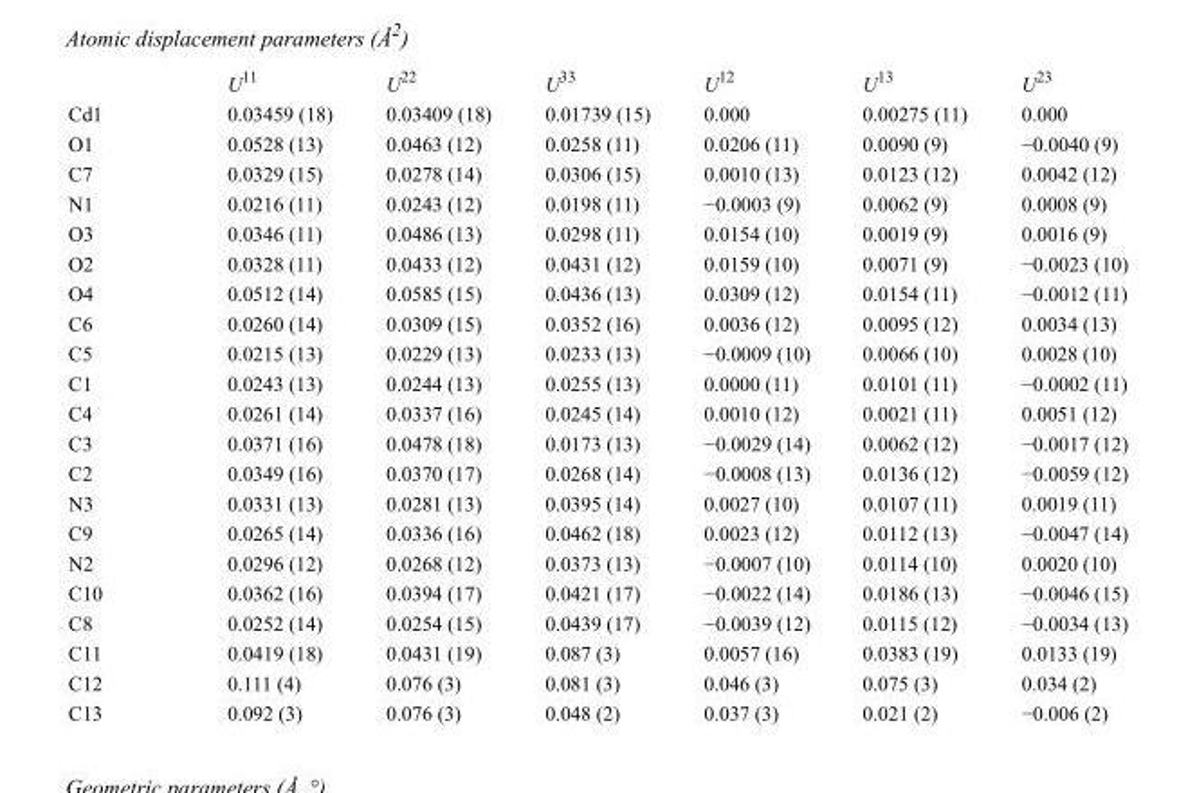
<table><thead><tr><td></td><td>U<sup>11</sup></td><td>U<sup>22</sup></td><td>U<sup>33</sup></td><td>U<sup>12</sup></td><td>U<sup>13</sup></td><td>U<sup>23</sup></td></tr></thead><tbody><tr><td>Cd1</td><td>0.03459 (18)</td><td>0.03409 (18)</td><td>0.01739 (15)</td><td>0.000</td><td>0.00275 (11)</td><td>0.000</td></tr><tr><td>O1</td><td>0.0528 (13)</td><td>0.0463 (12)</td><td>0.0258 (11)</td><td>0.0206 (11)</td><td>0.0090 (9)</td><td>−0.0040 (9)</td></tr><tr><td>C7</td><td>0.0329 (15)</td><td>0.0278 (14)</td><td>0.0306 (15)</td><td>0.0010 (13)</td><td>0.0123 (12)</td><td>0.0042 (12)</td></tr><tr><td>N1</td><td>0.0216 (11)</td><td>0.0243 (12)</td><td>0.0198 (11)</td><td>−0.0003 (9)</td><td>0.0062 (9)</td><td>0.0008 (9)</td></tr><tr><td>O3</td><td>0.0346 (11)</td><td>0.0486 (13)</td><td>0.0298 (11)</td><td>0.0154 (10)</td><td>0.0019 (9)</td><td>0.0016 (9)</td></tr><tr><td>O2</td><td>0.0328 (11)</td><td>0.0433 (12)</td><td>0.0431 (12)</td><td>0.0159 (10)</td><td>0.0071 (9)</td><td>−0.0023 (10)</td></tr><tr><td>O4</td><td>0.0512 (14)</td><td>0.0585 (15)</td><td>0.0436 (13)</td><td>0.0309 (12)</td><td>0.0154 (11)</td><td>−0.0012 (11)</td></tr><tr><td>C6</td><td>0.0260 (14)</td><td>0.0309 (15)</td><td>0.0352 (16)</td><td>0.0036 (12)</td><td>0.0095 (12)</td><td>0.0034 (13)</td></tr><tr><td>C5</td><td>0.0215 (13)</td><td>0.0229 (13)</td><td>0.0233 (13)</td><td>−0.0009 (10)</td><td>0.0066 (10)</td><td>0.0028 (10)</td></tr><tr><td>C1</td><td>0.0243 (13)</td><td>0.0244 (13)</td><td>0.0255 (13)</td><td>0.0000 (11)</td><td>0.0101 (11)</td><td>−0.0002 (11)</td></tr><tr><td>C4</td><td>0.0261 (14)</td><td>0.0337 (16)</td><td>0.0245 (14)</td><td>0.0010 (12)</td><td>0.0021 (11)</td><td>0.0051 (12)</td></tr><tr><td>C3</td><td>0.0371 (16)</td><td>0.0478 (18)</td><td>0.0173 (13)</td><td>−0.0029 (14)</td><td>0.0062 (12)</td><td>−0.0017 (12)</td></tr><tr><td>C2</td><td>0.0349 (16)</td><td>0.0370 (17)</td><td>0.0268 (14)</td><td>−0.0008 (13)</td><td>0.0136 (12)</td><td>−0.0059 (12)</td></tr><tr><td>N3</td><td>0.0331 (13)</td><td>0.0281 (13)</td><td>0.0395 (14)</td><td>0.0027 (10)</td><td>0.0107 (11)</td><td>0.0019 (11)</td></tr><tr><td>C9</td><td>0.0265 (14)</td><td>0.0336 (16)</td><td>0.0462 (18)</td><td>0.0023 (12)</td><td>0.0112 (13)</td><td>−0.0047 (14)</td></tr><tr><td>N2</td><td>0.0296 (12)</td><td>0.0268 (12)</td><td>0.0373 (13)</td><td>−0.0007 (10)</td><td>0.0114 (10)</td><td>0.0020 (10)</td></tr><tr><td>C10</td><td>0.0362 (16)</td><td>0.0394 (17)</td><td>0.0421 (17)</td><td>−0.0022 (14)</td><td>0.0186 (13)</td><td>−0.0046 (15)</td></tr><tr><td>C8</td><td>0.0252 (14)</td><td>0.0254 (15)</td><td>0.0439 (17)</td><td>−0.0039 (12)</td><td>0.0115 (12)</td><td>−0.0034 (13)</td></tr><tr><td>C11</td><td>0.0419 (18)</td><td>0.0431 (19)</td><td>0.087 (3)</td><td>0.0057 (16)</td><td>0.0383 (19)</td><td>0.0133 (19)</td></tr><tr><td>C12</td><td>0.111 (4)</td><td>0.076 (3)</td><td>0.081 (3)</td><td>0.046 (3)</td><td>0.075 (3)</td><td>0.034 (2)</td></tr><tr><td>C13</td><td>0.092 (3)</td><td>0.076 (3)</td><td>0.048 (2)</td><td>0.037 (3)</td><td>0.021 (2)</td><td>−0.006 (2)</td></tr></tbody></table>